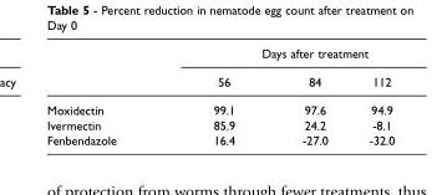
<table><thead><tr><td rowspan="2"></td><td colspan="3">Days after treatment</td></tr><tr><td>56</td><td>84</td><td>112</td></tr></thead><tbody><tr><td>Moxidectin</td><td>99.1</td><td>97.6</td><td>94.9</td></tr><tr><td>Ivermectin</td><td>85.9</td><td>24.2</td><td>-8.1</td></tr><tr><td>Fenbendazole</td><td>16.4</td><td>-27.0</td><td>-32.0</td></tr></tbody></table>